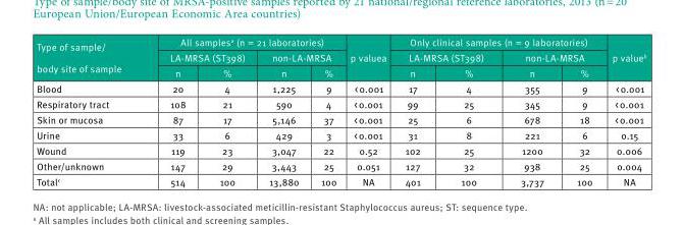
<table><thead><tr><td rowspan="3">Type of sample/ body site of sample</td><td colspan="4">All samples<sup>a</sup> (n = 21 laboratories)</td><td rowspan="3">p valuea</td><td colspan="4">Only clinical samples (n = 9 laboratories)</td><td rowspan="3">p value<sup>b</sup></td></tr><tr><td colspan="2">LA-MRSA (ST398)</td><td colspan="2">non-LA-MRSA</td><td colspan="2">LA-MRSA (ST398)</td><td colspan="2">non-LA-MRSA</td></tr><tr><td>n</td><td>%</td><td>n</td><td>%</td><td>n</td><td>%</td><td>n</td><td>%</td></tr></thead><tbody><tr><td>Blood</td><td>20</td><td>4</td><td>1,225</td><td>9</td><td>&lt; 0.001</td><td>17</td><td>4</td><td>355</td><td>9</td><td>&lt; 0.001</td></tr><tr><td>Respiratory tract</td><td>108</td><td>21</td><td>590</td><td>4</td><td>&lt; 0.001</td><td>99</td><td>25</td><td>345</td><td>9</td><td>&lt; 0.001</td></tr><tr><td>Skin or mucosa</td><td>87</td><td>17</td><td>5,146</td><td>37</td><td>&lt; 0.001</td><td>25</td><td>6</td><td>678</td><td>18</td><td>&lt; 0.001</td></tr><tr><td>Urine</td><td>33</td><td>6</td><td>429</td><td>3</td><td>&lt; 0.001</td><td>31</td><td>8</td><td>221</td><td>6</td><td>0.15</td></tr><tr><td>Wound</td><td>119</td><td>23</td><td>3,047</td><td>22</td><td>0.52</td><td>102</td><td>25</td><td>1200</td><td>32</td><td>0.006</td></tr><tr><td>Other/unknown</td><td>147</td><td>29</td><td>3,443</td><td>25</td><td>0.051</td><td>127</td><td>32</td><td>938</td><td>25</td><td>0.004</td></tr><tr><td>Total<sup>c</sup></td><td>514</td><td>100</td><td>13,880</td><td>100</td><td>NA</td><td>401</td><td>100</td><td>3,737</td><td>100</td><td>NA</td></tr></tbody></table>